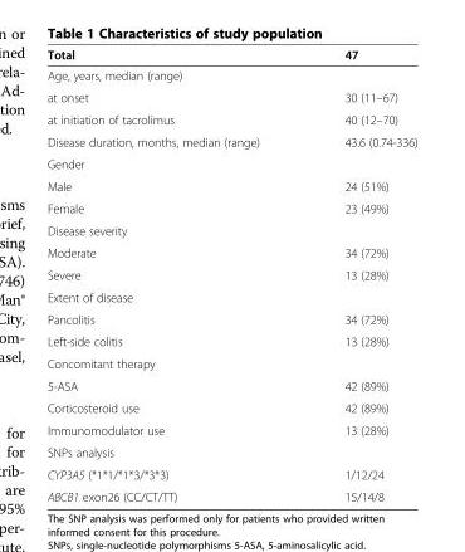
<table><thead><tr><td>Total</td><td>47</td></tr></thead><tbody><tr><td colspan="2">Age, years, median (range)</td></tr><tr><td>at onset</td><td>30 (11–67)</td></tr><tr><td>at initiation of tacrolimus</td><td>40 (12–70)</td></tr><tr><td>Disease duration, months, median (range)</td><td>43.6 (0.74-336)</td></tr><tr><td colspan="2">Gender</td></tr><tr><td>Male</td><td>24 (51%)</td></tr><tr><td>Female</td><td>23 (49%)</td></tr><tr><td colspan="2">Disease severity</td></tr><tr><td>Moderate</td><td>34 (72%)</td></tr><tr><td>Severe</td><td>13 (28%)</td></tr><tr><td colspan="2">Extent of disease</td></tr><tr><td>Pancolitis</td><td>34 (72%)</td></tr><tr><td>Left-side colitis</td><td>13 (28%)</td></tr><tr><td colspan="2">Concomitant therapy</td></tr><tr><td>5-ASA</td><td>42 (89%)</td></tr><tr><td>Corticosteroid use</td><td>42 (89%)</td></tr><tr><td>Immunomodulator use</td><td>13 (28%)</td></tr><tr><td colspan="2">SNPs analysis</td></tr><tr><td>CYP3A5 (*1*1/*1*3/*3*3)</td><td>1/12/24</td></tr><tr><td>ABCB1 exon26 (CC/CT/TT)</td><td>15/14/8</td></tr></tbody></table>